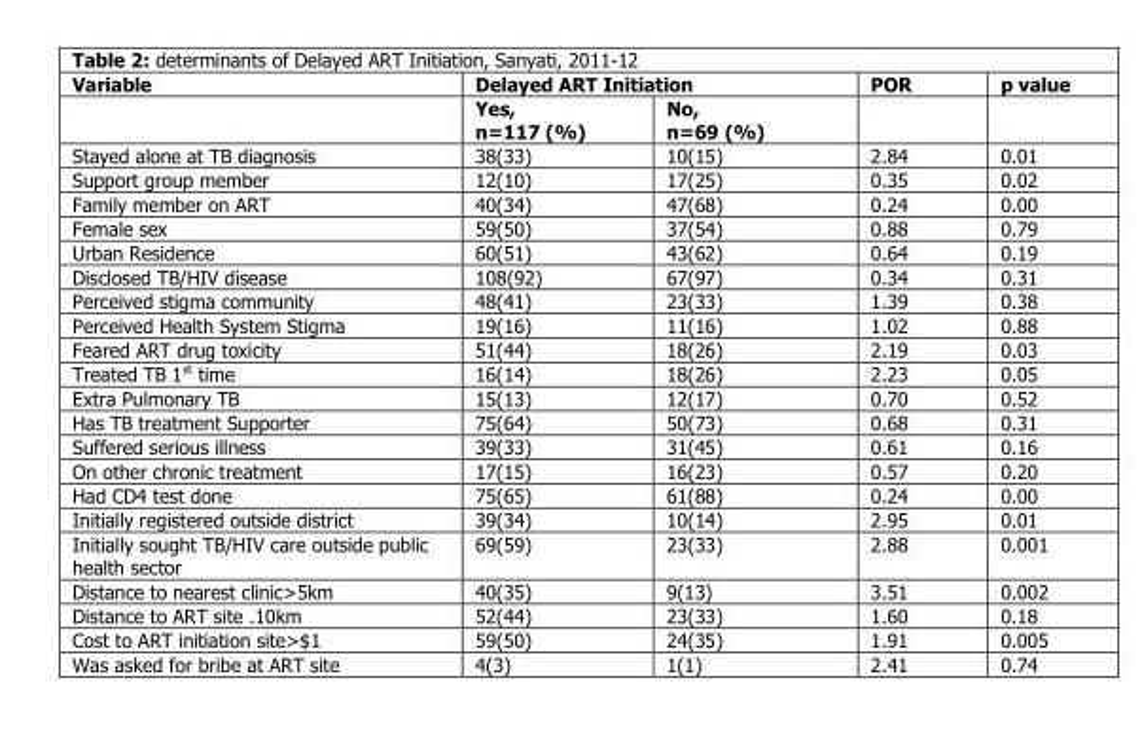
<table><thead><tr><td rowspan="2">Variable</td><td colspan="2">Delayed ART Initiation</td><td rowspan="2">POR</td><td rowspan="2">p value</td></tr><tr><td>Yes, n=117 (%)</td><td>No, n=69 (%)</td></tr></thead><tbody><tr><td>Stayed alone at TB diagnosis</td><td>38(33)</td><td>10(15)</td><td>2.84</td><td>0.01</td></tr><tr><td>Support group member</td><td>12(10)</td><td>17(25)</td><td>0.35</td><td>0.02</td></tr><tr><td>Family member on ART</td><td>40(34)</td><td>47(68)</td><td>0.24</td><td>0.00</td></tr><tr><td>Female sex</td><td>59(50)</td><td>37(54)</td><td>0.88</td><td>0.79</td></tr><tr><td>Urban Residence</td><td>60(51)</td><td>43(62)</td><td>0.64</td><td>0.19</td></tr><tr><td>Disclosed TB/HIV disease</td><td>108(92)</td><td>67(97)</td><td>0.34</td><td>0.31</td></tr><tr><td>Perceived stigma community</td><td>48(41)</td><td>23(33)</td><td>1.39</td><td>0.38</td></tr><tr><td>Perceived Health System Stigma</td><td>19(16)</td><td>11(16)</td><td>1.02</td><td>0.88</td></tr><tr><td>Feared ART drug toxicity</td><td>51(44)</td><td>18(26)</td><td>2.19</td><td>0.03</td></tr><tr><td>Treated TB 1<sup>st</sup> time</td><td>16(14)</td><td>18(26)</td><td>2.23</td><td>0.05</td></tr><tr><td>Extra Pulmonary TB</td><td>15(13)</td><td>12(17)</td><td>0.70</td><td>0.52</td></tr><tr><td>Has TB treatment Supporter</td><td>75(64)</td><td>50(73)</td><td>0.68</td><td>0.31</td></tr><tr><td>Suffered serious illness</td><td>39(33)</td><td>31(45)</td><td>0.61</td><td>0.16</td></tr><tr><td>On other chronic treatment</td><td>17(15)</td><td>16(23)</td><td>0.57</td><td>0.20</td></tr><tr><td>Had CD4 test done</td><td>75(65)</td><td>61(88)</td><td>0.24</td><td>0.00</td></tr><tr><td>Initially registered outside district</td><td>39(34)</td><td>10(14)</td><td>2.95</td><td>0.01</td></tr><tr><td>Initially sought TB/HIV care outside public health sector</td><td>69(59)</td><td>23(33)</td><td>2.88</td><td>0.001</td></tr><tr><td>Distance to nearest clinic&gt;5km</td><td>40(35)</td><td>9(13)</td><td>3.51</td><td>0.002</td></tr><tr><td>Distance to ART site .10km</td><td>52(44)</td><td>23(33)</td><td>1.60</td><td>0.18</td></tr><tr><td>Cost to ART initiation site&gt;$1</td><td>59(50)</td><td>24(35)</td><td>1.91</td><td>0.005</td></tr><tr><td>Was asked for bribe at ART site</td><td>4(3)</td><td>1(1)</td><td>2.41</td><td>0.74</td></tr></tbody></table>